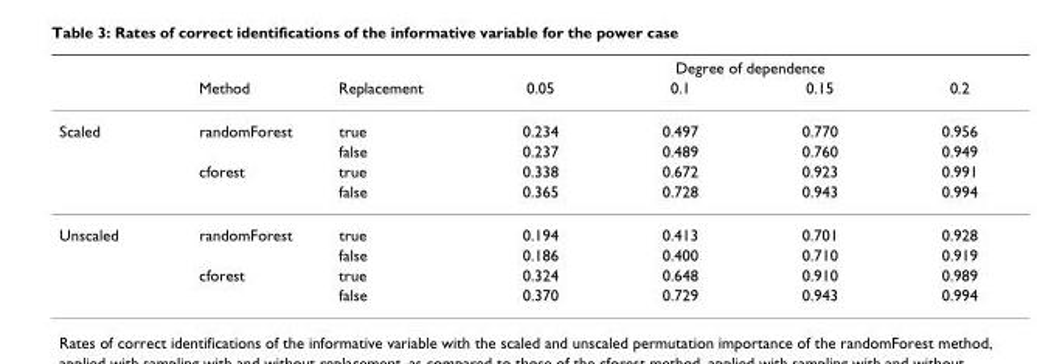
<table><thead><tr><td rowspan="2"></td><td rowspan="2">Method</td><td rowspan="2">Replacement</td><td colspan="4">Degree of dependence</td></tr><tr><td>0.05</td><td>0.1</td><td>0.15</td><td>0.2</td></tr></thead><tbody><tr><td rowspan="4">Scaled</td><td>randomForest</td><td>true</td><td>0.234</td><td>0.497</td><td>0.770</td><td>0.956</td></tr><tr><td></td><td>false</td><td>0.237</td><td>0.489</td><td>0.760</td><td>0.949</td></tr><tr><td>cforest</td><td>true</td><td>0.338</td><td>0.672</td><td>0.923</td><td>0.991</td></tr><tr><td></td><td>false</td><td>0.365</td><td>0.728</td><td>0.943</td><td>0.994</td></tr><tr><td rowspan="4">Unscaled</td><td>randomForest</td><td>true</td><td>0.194</td><td>0.413</td><td>0.701</td><td>0.928</td></tr><tr><td></td><td>false</td><td>0.186</td><td>0.400</td><td>0.710</td><td>0.919</td></tr><tr><td>cforest</td><td>true</td><td>0.324</td><td>0.648</td><td>0.910</td><td>0.989</td></tr><tr><td></td><td>false</td><td>0.370</td><td>0.729</td><td>0.943</td><td>0.994</td></tr></tbody></table>